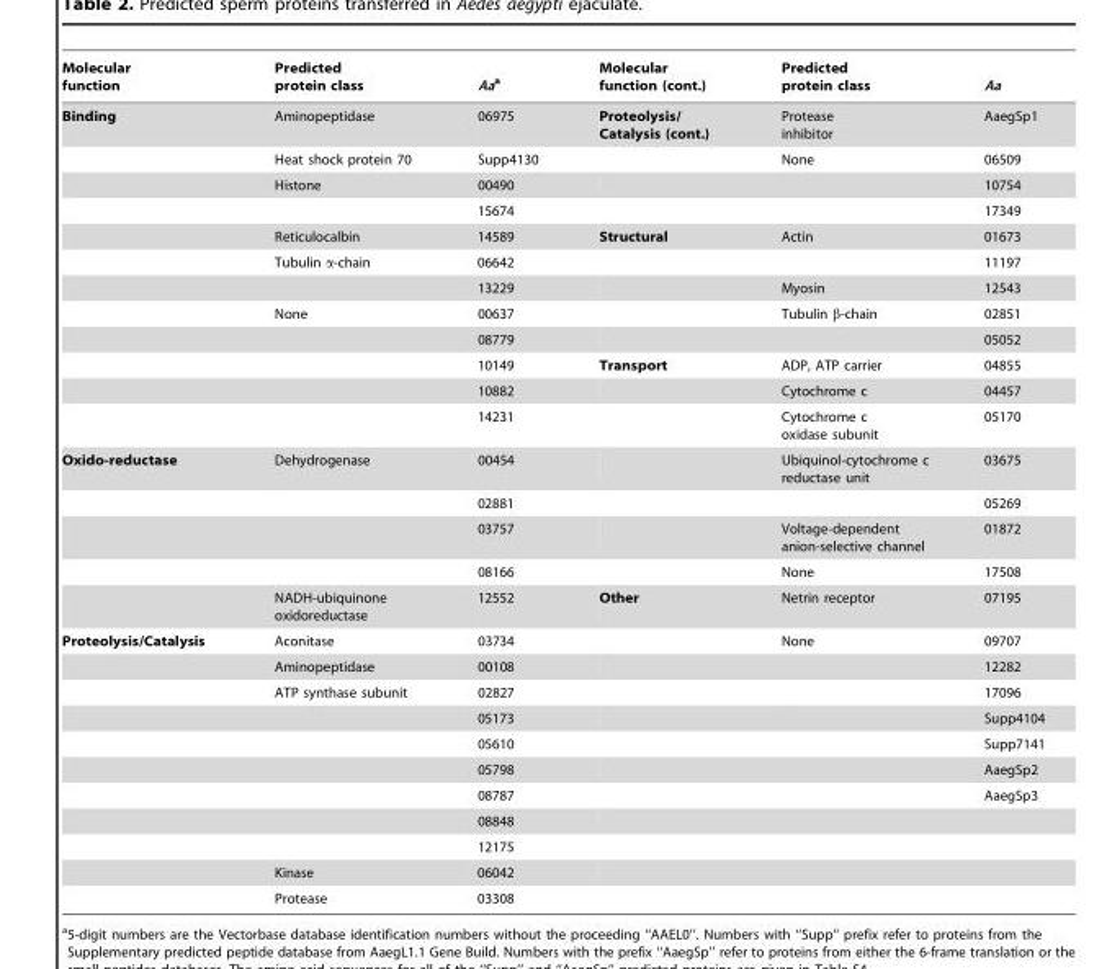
<table><thead><tr><td>Molecular function</td><td>Predicted protein class</td><td>Aaa</td><td>Molecular function (cont.)</td><td>Predicted protein class</td><td>Aa</td></tr></thead><tbody><tr><td rowspan="12">Binding</td><td>Aminopeptidase</td><td>06975</td><td>Proteolysis/ Catalysis (cont.)</td><td>Protease inhibitor</td><td>AaegSp1</td></tr><tr><td>Heat shock protein 70</td><td>Supp4130</td><td></td><td>None</td><td>06509</td></tr><tr><td>Histone</td><td>00490</td><td></td><td></td><td>10754</td></tr><tr><td></td><td>15674</td><td></td><td></td><td>17349</td></tr><tr><td>Reticulocalbin</td><td>14589</td><td>Structural</td><td>Actin</td><td>01673</td></tr><tr><td>Tubulin α-chain</td><td>06642</td><td></td><td></td><td>11197</td></tr><tr><td></td><td>13229</td><td></td><td>Myosin</td><td>12543</td></tr><tr><td>None</td><td>00637</td><td></td><td>Tubulin β-chain</td><td>02851</td></tr><tr><td></td><td>08779</td><td></td><td></td><td>05052</td></tr><tr><td></td><td>10149</td><td>Transport</td><td>ADP, ATP carrier</td><td>04855</td></tr><tr><td></td><td>10882</td><td></td><td>Cytochrome c</td><td>04457</td></tr><tr><td></td><td>14231</td><td></td><td>Cytochrome c oxidase subunit</td><td>05170</td></tr><tr><td rowspan="5">Oxido-reductase</td><td>Dehydrogenase</td><td>00454</td><td></td><td>Ubiquinol-cytochrome c reductase unit</td><td>03675</td></tr><tr><td></td><td>02881</td><td></td><td></td><td>05269</td></tr><tr><td></td><td>03757</td><td></td><td>Voltage-dependent anion-selective channel</td><td>01872</td></tr><tr><td></td><td>08166</td><td></td><td>None</td><td>17508</td></tr><tr><td>NADH-ubiquinone oxidoreductase</td><td>12552</td><td>Other</td><td>Netrin receptor</td><td>07195</td></tr><tr><td rowspan="11">Proteolysis/Catalysis</td><td>Aconitase</td><td>03734</td><td></td><td>None</td><td>09707</td></tr><tr><td>Aminopeptidase</td><td>00108</td><td></td><td></td><td>12282</td></tr><tr><td>ATP synthase subunit</td><td>02827</td><td></td><td></td><td>17096</td></tr><tr><td></td><td>05173</td><td></td><td></td><td>Supp4104</td></tr><tr><td></td><td>05610</td><td></td><td></td><td>Supp7141</td></tr><tr><td></td><td>05798</td><td></td><td></td><td>AaegSp2</td></tr><tr><td></td><td>08787</td><td></td><td></td><td>AaegSp3</td></tr><tr><td></td><td>08848</td><td></td><td></td><td></td></tr><tr><td></td><td>12175</td><td></td><td></td><td></td></tr><tr><td>Kinase</td><td>06042</td><td></td><td></td><td></td></tr><tr><td>Protease</td><td>03308</td><td></td><td></td><td></td></tr></tbody></table>